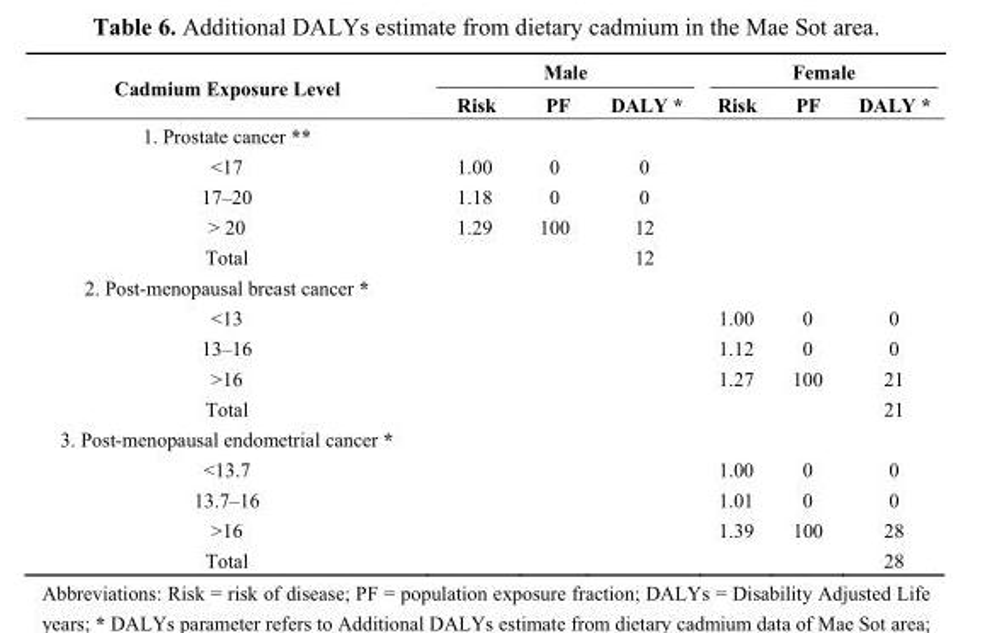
<table><thead><tr><td rowspan="2">Cadmium Exposure Level</td><td colspan="3">Male</td><td colspan="3">Female</td></tr><tr><td>Risk</td><td>PF</td><td>DALY *</td><td>Risk</td><td>PF</td><td>DALY *</td></tr></thead><tbody><tr><td colspan="7">1. Prostate cancer **</td></tr><tr><td>&lt;17</td><td>1.00</td><td>0</td><td>0</td><td></td><td></td><td></td></tr><tr><td>17–20</td><td>1.18</td><td>0</td><td>0</td><td></td><td></td><td></td></tr><tr><td>&gt; 20</td><td>1.29</td><td>100</td><td>12</td><td></td><td></td><td></td></tr><tr><td>Total</td><td></td><td></td><td>12</td><td></td><td></td><td></td></tr><tr><td colspan="7">2. Post-menopausal breast cancer *</td></tr><tr><td>&lt;13</td><td></td><td></td><td></td><td>1.00</td><td>0</td><td>0</td></tr><tr><td>13–16</td><td></td><td></td><td></td><td>1.12</td><td>0</td><td>0</td></tr><tr><td>&gt;16</td><td></td><td></td><td></td><td>1.27</td><td>100</td><td>21</td></tr><tr><td>Total</td><td></td><td></td><td></td><td></td><td></td><td>21</td></tr><tr><td colspan="7">3. Post-menopausal endometrial cancer *</td></tr><tr><td>&lt;13.7</td><td></td><td></td><td></td><td>1.00</td><td>0</td><td>0</td></tr><tr><td>13.7–16</td><td></td><td></td><td></td><td>1.01</td><td>0</td><td>0</td></tr><tr><td>&gt;16</td><td></td><td></td><td></td><td>1.39</td><td>100</td><td>28</td></tr><tr><td>Total</td><td></td><td></td><td></td><td></td><td></td><td>28</td></tr></tbody></table>